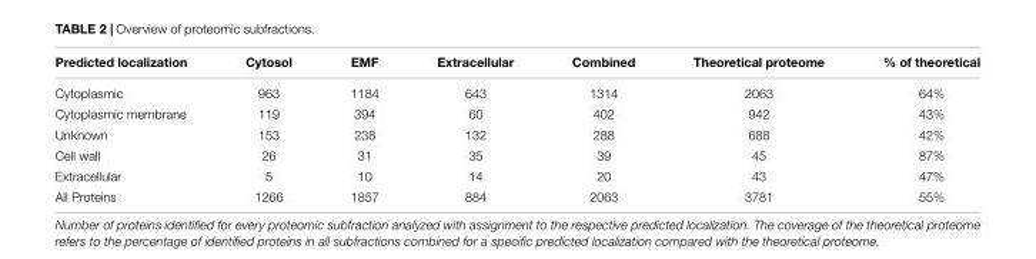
<table><thead><tr><td>Predicted localization</td><td>Cytosol</td><td>EMF</td><td>Extracellular</td><td>Combined</td><td>Theoretical proteome</td><td>% of theoretical</td></tr></thead><tbody><tr><td>Cytoplasmic</td><td>963</td><td>1184</td><td>643</td><td>1314</td><td>2063</td><td>64%</td></tr><tr><td>Cytoplasmic membrane</td><td>119</td><td>394</td><td>60</td><td>402</td><td>942</td><td>43%</td></tr><tr><td>Unknown</td><td>153</td><td>238</td><td>132</td><td>288</td><td>688</td><td>42%</td></tr><tr><td>Cell wall</td><td>26</td><td>31</td><td>35</td><td>39</td><td>45</td><td>87%</td></tr><tr><td>Extracellular</td><td>5</td><td>10</td><td>14</td><td>20</td><td>43</td><td>47%</td></tr><tr><td>All Proteins</td><td>1266</td><td>1857</td><td>884</td><td>2063</td><td>3781</td><td>55%</td></tr></tbody></table>